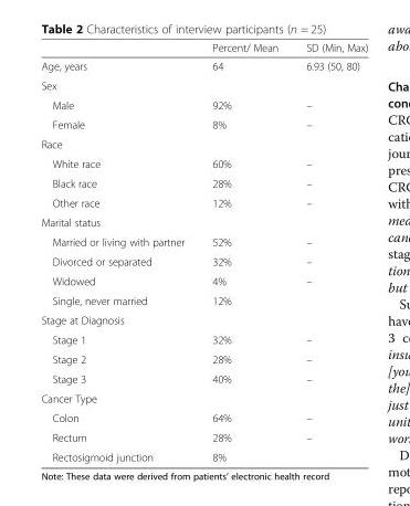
<table><thead><tr><td></td><td>Percent/ Mean</td><td>SD (Min, Max)</td></tr></thead><tbody><tr><td>Age, years</td><td>64</td><td>6.93 (50, 80)</td></tr><tr><td colspan="3">Sex</td></tr><tr><td>Male</td><td>92%</td><td>–</td></tr><tr><td>Female</td><td>8%</td><td>–</td></tr><tr><td colspan="3">Race</td></tr><tr><td>White race</td><td>60%</td><td>–</td></tr><tr><td>Black race</td><td>28%</td><td>–</td></tr><tr><td>Other race</td><td>12%</td><td>–</td></tr><tr><td colspan="3">Marital status</td></tr><tr><td>Married or living with partner</td><td>52%</td><td>–</td></tr><tr><td>Divorced or separated</td><td>32%</td><td>–</td></tr><tr><td>Widowed</td><td>4%</td><td>–</td></tr><tr><td>Single, never married</td><td>12%</td><td></td></tr><tr><td colspan="3">Stage at Diagnosis</td></tr><tr><td>Stage 1</td><td>32%</td><td>–</td></tr><tr><td>Stage 2</td><td>28%</td><td>–</td></tr><tr><td>Stage 3</td><td>40%</td><td>–</td></tr><tr><td colspan="3">Cancer Type</td></tr><tr><td>Colon</td><td>64%</td><td>–</td></tr><tr><td>Rectum</td><td>28%</td><td>–</td></tr><tr><td>Rectosigmoid junction</td><td>8%</td><td></td></tr></tbody></table>